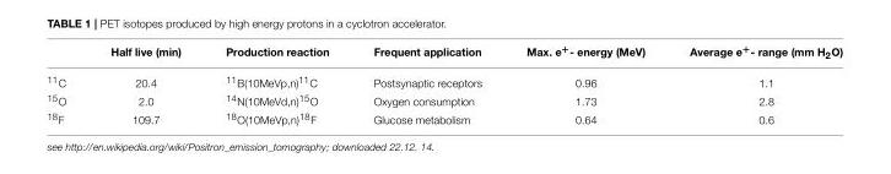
<table><thead><tr><td></td><td>Half live (min)</td><td>Production reaction</td><td>Frequent application</td><td>Max. e<sup>+</sup>- energy (MeV)</td><td>Average e<sup>+</sup>- range (mm H<sub>2</sub>O)</td></tr></thead><tbody><tr><td><sup>11</sup>C</td><td>20.4</td><td><sup>11</sup>B(10MeVp,n)<sup>11</sup>C</td><td>Postsynaptic receptors</td><td>0.96</td><td>1.1</td></tr><tr><td><sup>15</sup>O</td><td>2.0</td><td><sup>14</sup>N(10MeVd,n)<sup>15</sup>O</td><td>Oxygen consumption</td><td>1.73</td><td>2.8</td></tr><tr><td><sup>18</sup>F</td><td>109.7</td><td><sup>18</sup>O(10MeVp,n)<sup>18</sup>F</td><td>Glucose metabolism</td><td>0.64</td><td>0.6</td></tr></tbody></table>